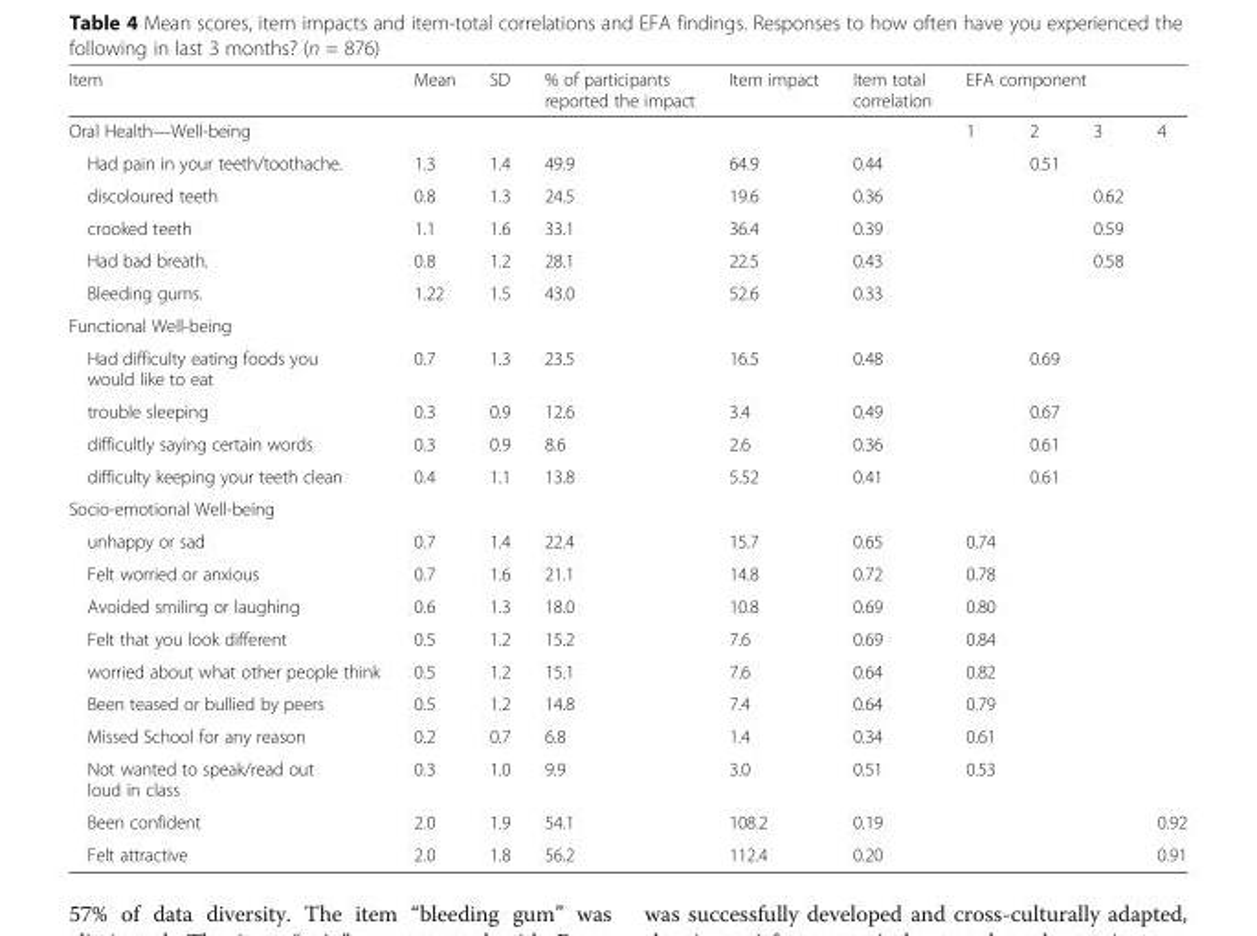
<table><thead><tr><td>Item</td><td>Mean</td><td>SD</td><td>% of participants reported the impact</td><td>Item impact</td><td>Item total correlation</td><td colspan="4">EFA component</td></tr><tr><td colspan="6">Oral Health—Well-being</td><td>1</td><td>2</td><td>3</td><td>4</td></tr></thead><tbody><tr><td>Had pain in your teeth/toothache.</td><td>1.3</td><td>1.4</td><td>49.9</td><td>64.9</td><td>0.44</td><td></td><td>0.51</td><td></td><td></td></tr><tr><td>discoloured teeth</td><td>0.8</td><td>1.3</td><td>24.5</td><td>19.6</td><td>0.36</td><td></td><td></td><td>0.62</td><td></td></tr><tr><td>crooked teeth</td><td>1.1</td><td>1.6</td><td>33.1</td><td>36.4</td><td>0.39</td><td></td><td></td><td>0.59</td><td></td></tr><tr><td>Had bad breath.</td><td>0.8</td><td>1.2</td><td>28.1</td><td>22.5</td><td>0.43</td><td></td><td></td><td>0.58</td><td></td></tr><tr><td>Bleeding gums.</td><td>1.22</td><td>1.5</td><td>43.0</td><td>52.6</td><td>0.33</td><td></td><td></td><td></td><td></td></tr><tr><td colspan="10">Functional Well-being</td></tr><tr><td>Had difficulty eating foods you would like to eat</td><td>0.7</td><td>1.3</td><td>23.5</td><td>16.5</td><td>0.48</td><td></td><td>0.69</td><td></td><td></td></tr><tr><td>trouble sleeping</td><td>0.3</td><td>0.9</td><td>12.6</td><td>3.4</td><td>0.49</td><td></td><td>0.67</td><td></td><td></td></tr><tr><td>difficultly saying certain words</td><td>0.3</td><td>0.9</td><td>8.6</td><td>2.6</td><td>0.36</td><td></td><td>0.61</td><td></td><td></td></tr><tr><td>difficulty keeping your teeth clean</td><td>0.4</td><td>1.1</td><td>13.8</td><td>5.52</td><td>0.41</td><td></td><td>0.61</td><td></td><td></td></tr><tr><td colspan="10">Socio-emotional Well-being</td></tr><tr><td>unhappy or sad</td><td>0.7</td><td>1.4</td><td>22.4</td><td>15.7</td><td>0.65</td><td>0.74</td><td></td><td></td><td></td></tr><tr><td>Felt worried or anxious</td><td>0.7</td><td>1.6</td><td>21.1</td><td>14.8</td><td>0.72</td><td>0.78</td><td></td><td></td><td></td></tr><tr><td>Avoided smiling or laughing</td><td>0.6</td><td>1.3</td><td>18.0</td><td>10.8</td><td>0.69</td><td>0.80</td><td></td><td></td><td></td></tr><tr><td>Felt that you look different</td><td>0.5</td><td>1.2</td><td>15.2</td><td>7.6</td><td>0.69</td><td>0.84</td><td></td><td></td><td></td></tr><tr><td>worried about what other people think</td><td>0.5</td><td>1.2</td><td>15.1</td><td>7.6</td><td>0.64</td><td>0.82</td><td></td><td></td><td></td></tr><tr><td>Been teased or bullied by peers</td><td>0.5</td><td>1.2</td><td>14.8</td><td>7.4</td><td>0.64</td><td>0.79</td><td></td><td></td><td></td></tr><tr><td>Missed School for any reason</td><td>0.2</td><td>0.7</td><td>6.8</td><td>1.4</td><td>0.34</td><td>0.61</td><td></td><td></td><td></td></tr><tr><td>Not wanted to speak/read out loud in class</td><td>0.3</td><td>1.0</td><td>9.9</td><td>3.0</td><td>0.51</td><td>0.53</td><td></td><td></td><td></td></tr><tr><td>Been confident</td><td>2.0</td><td>1.9</td><td>54.1</td><td>108.2</td><td>0.19</td><td></td><td></td><td></td><td>0.92</td></tr><tr><td>Felt attractive</td><td>2.0</td><td>1.8</td><td>56.2</td><td>112.4</td><td>0.20</td><td></td><td></td><td></td><td>0.91</td></tr></tbody></table>